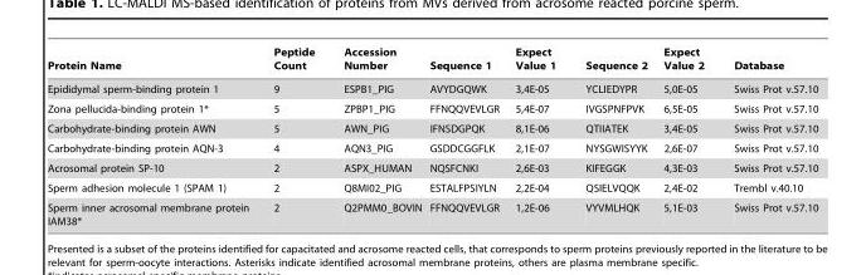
<table><thead><tr><td>Protein Name</td><td>Peptide Count</td><td>Accession Number</td><td>Sequence 1</td><td>Expect Value 1</td><td>Sequence 2</td><td>Expect Value 2</td><td>Database</td></tr></thead><tbody><tr><td>Epididymal sperm-binding protein 1</td><td>9</td><td>ESPB1_PIG</td><td>AVYDGQWK</td><td>3,4E-05</td><td>YCLIEDYPR</td><td>5,0E-05</td><td>Swiss Prot v.57.10</td></tr><tr><td>Zona pellucida-binding protein 1*</td><td>5</td><td>ZPBP1_PIG</td><td>FFNQQVEVLGR</td><td>5,4E-07</td><td>IVGSPNFPVK</td><td>6,5E-05</td><td>Swiss Prot v.57.10</td></tr><tr><td>Carbohydrate-binding protein AWN</td><td>5</td><td>AWN_PIG</td><td>IFNSDGPQK</td><td>8,1E-06</td><td>QTIIATEK</td><td>3,4E-05</td><td>Swiss Prot v.57.10</td></tr><tr><td>Carbohydrate-binding protein AQN-3</td><td>4</td><td>AQN3_PIG</td><td>GSDDCGGFLK</td><td>2,1E-07</td><td>NYSGWISYYK</td><td>2,6E-07</td><td>Swiss Prot v.57.10</td></tr><tr><td>Acrosomal protein SP-10</td><td>2</td><td>ASPX_HUMAN</td><td>NQSFCNKI</td><td>2,6E-03</td><td>KIFEGGK</td><td>4,3E-03</td><td>Swiss Prot v.57.10</td></tr><tr><td>Sperm adhesion molecule 1 (SPAM 1)</td><td>2</td><td>Q8MI02_PIG</td><td>ESTALFPSIYLN</td><td>2,2E-04</td><td>QSIELVQQK</td><td>2,4E-02</td><td>Trembl v.40.10</td></tr><tr><td>Sperm inner acrosomal membrane protein IAM38*</td><td>2</td><td>Q2PMM0_BOVIN</td><td>FFNQQVEVLGR</td><td>1,2E-06</td><td>VYVMLHQK</td><td>5,1E-03</td><td>Swiss Prot v.57.10</td></tr></tbody></table>